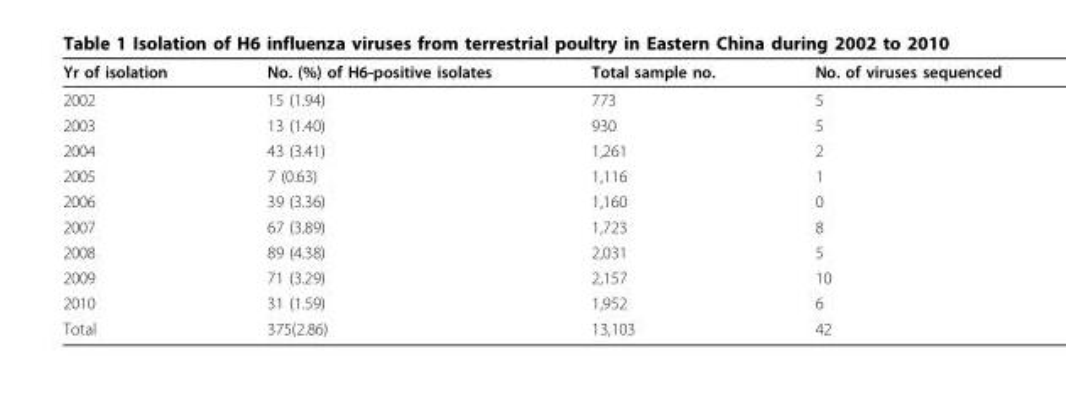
<table><thead><tr><td>Yr of isolation</td><td>No. (%) of H6-positive isolates</td><td>Total sample no.</td><td>No. of viruses sequenced</td></tr></thead><tbody><tr><td>2002</td><td>15 (1.94)</td><td>773</td><td>5</td></tr><tr><td>2003</td><td>13 (1.40)</td><td>930</td><td>5</td></tr><tr><td>2004</td><td>43 (3.41)</td><td>1,261</td><td>2</td></tr><tr><td>2005</td><td>7 (0.63)</td><td>1,116</td><td>1</td></tr><tr><td>2006</td><td>39 (3.36)</td><td>1,160</td><td>0</td></tr><tr><td>2007</td><td>67 (3.89)</td><td>1,723</td><td>8</td></tr><tr><td>2008</td><td>89 (4.38)</td><td>2,031</td><td>5</td></tr><tr><td>2009</td><td>71 (3.29)</td><td>2,157</td><td>10</td></tr><tr><td>2010</td><td>31 (1.59)</td><td>1,952</td><td>6</td></tr><tr><td>Total</td><td>375(2.86)</td><td>13,103</td><td>42</td></tr></tbody></table>